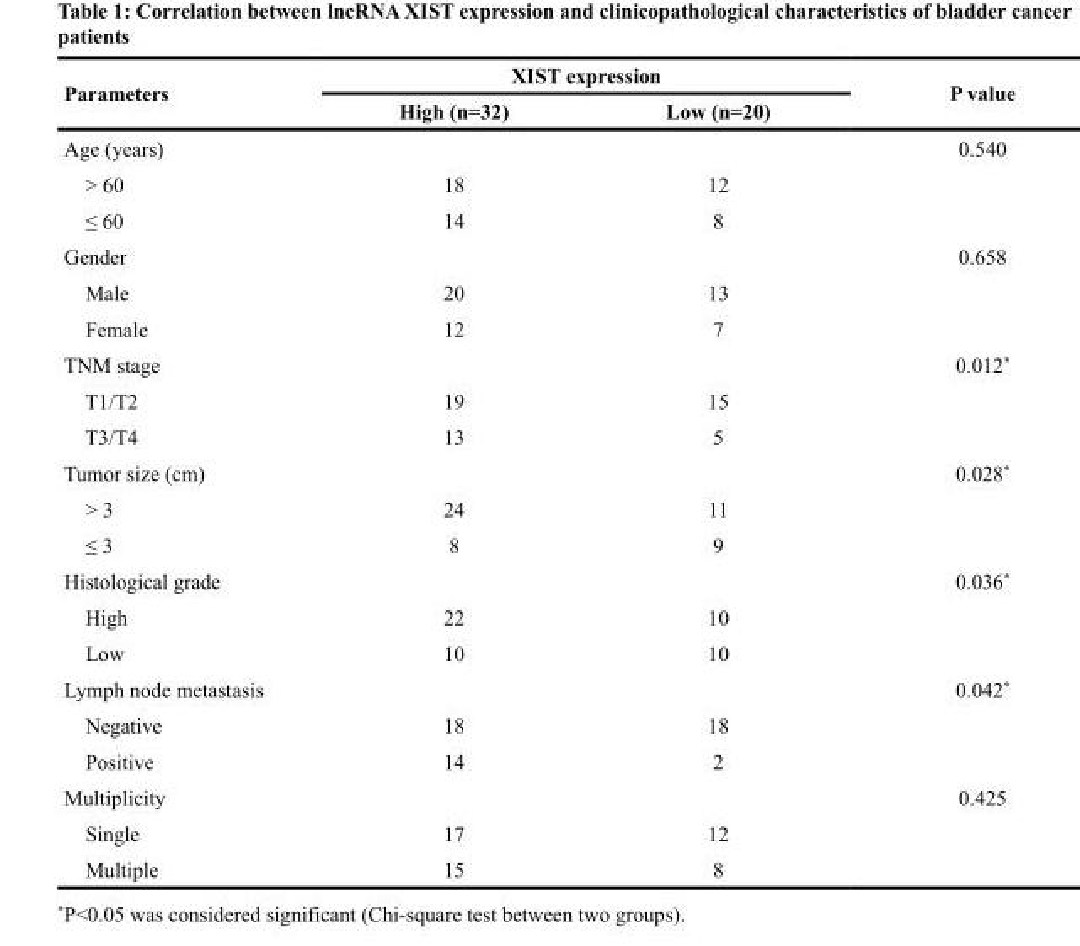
<table><thead><tr><td rowspan="2">Parameters</td><td colspan="2">XIST expression</td><td rowspan="2">P value</td></tr><tr><td>High (n=32)</td><td>Low (n=20)</td></tr></thead><tbody><tr><td>Age (years)</td><td></td><td></td><td>0.540</td></tr><tr><td>&gt; 60</td><td>18</td><td>12</td><td></td></tr><tr><td>≤ 60</td><td>14</td><td>8</td><td></td></tr><tr><td>Gender</td><td></td><td></td><td>0.658</td></tr><tr><td>Male</td><td>20</td><td>13</td><td></td></tr><tr><td>Female</td><td>12</td><td>7</td><td></td></tr><tr><td>TNM stage</td><td></td><td></td><td>0.012*</td></tr><tr><td>T1/T2</td><td>19</td><td>15</td><td></td></tr><tr><td>T3/T4</td><td>13</td><td>5</td><td></td></tr><tr><td>Tumor size (cm)</td><td></td><td></td><td>0.028*</td></tr><tr><td>&gt; 3</td><td>24</td><td>11</td><td></td></tr><tr><td>≤ 3</td><td>8</td><td>9</td><td></td></tr><tr><td>Histological grade</td><td></td><td></td><td>0.036*</td></tr><tr><td>High</td><td>22</td><td>10</td><td></td></tr><tr><td>Low</td><td>10</td><td>10</td><td></td></tr><tr><td>Lymph node metastasis</td><td></td><td></td><td>0.042*</td></tr><tr><td>Negative</td><td>18</td><td>18</td><td></td></tr><tr><td>Positive</td><td>14</td><td>2</td><td></td></tr><tr><td>Multiplicity</td><td></td><td></td><td>0.425</td></tr><tr><td>Single</td><td>17</td><td>12</td><td></td></tr><tr><td>Multiple</td><td>15</td><td>8</td><td></td></tr></tbody></table>